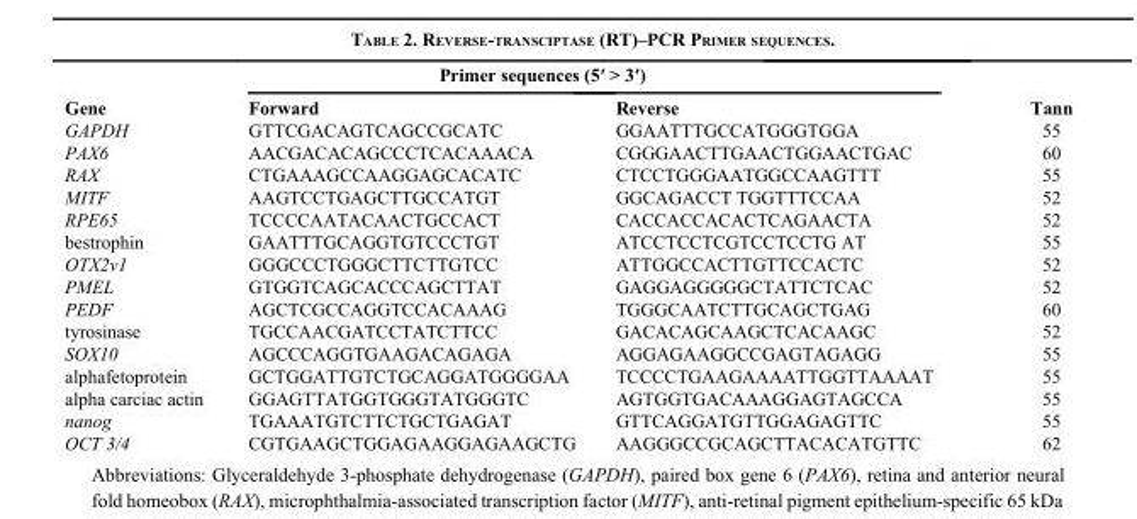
<table><thead><tr><td rowspan="2">Gene</td><td colspan="2">Primer sequences (5′ &gt; 3′)</td><td rowspan="2">Tann</td></tr><tr><td>Forward</td><td>Reverse</td></tr></thead><tbody><tr><td>GAPDH</td><td>GTTCGACAGTCAGCCGCATC</td><td>GGAATTTGCCATGGGTGGA</td><td>55</td></tr><tr><td>PAX6</td><td>AACGACACAGCCCTCACAAACA</td><td>CGGGAACTTGAACTGGAACTGAC</td><td>60</td></tr><tr><td>RAX</td><td>CTGAAAGCCAAGGAGCACATC</td><td>CTCCTGGGAATGGCCAAGTTT</td><td>55</td></tr><tr><td>MITF</td><td>AAGTCCTGAGCTTGCCATGT</td><td>GGCAGACCT TGGTTTCCAA</td><td>52</td></tr><tr><td>RPE65</td><td>TCCCCAATACAACTGCCACT</td><td>CACCACCACACTCAGAACTA</td><td>52</td></tr><tr><td>bestrophin</td><td>GAATTTGCAGGTGTCCCTGT</td><td>ATCCTCCTCGTCCTCCTG AT</td><td>55</td></tr><tr><td>OTX2v1</td><td>GGGCCCTGGGCTTCTTGTCC</td><td>ATTGGCCACTTGTTCCACTC</td><td>52</td></tr><tr><td>PMEL</td><td>GTGGTCAGCACCCAGCTTAT</td><td>GAGGAGGGGGCTATTCTCAC</td><td>52</td></tr><tr><td>PEDF</td><td>AGCTCGCCAGGTCCACAAAG</td><td>TGGGCAATCTTGCAGCTGAG</td><td>60</td></tr><tr><td>tyrosinase</td><td>TGCCAACGATCCTATCTTCC</td><td>GACACAGCAAGCTCACAAGC</td><td>52</td></tr><tr><td>SOX10</td><td>AGCCCAGGTGAAGACAGAGA</td><td>AGGAGAAGGCCGAGTAGAGG</td><td>55</td></tr><tr><td>alphafetoprotein</td><td>GCTGGATTGTCTGCAGGATGGGGAA</td><td>TCCCCTGAAGAAAATTGGTTAAAAT</td><td>55</td></tr><tr><td>alpha carciac actin</td><td>GGAGTTATGGTGGGTATGGGTC</td><td>AGTGGTGACAAAGGAGTAGCCA</td><td>55</td></tr><tr><td>nanog</td><td>TGAAATGTCTTCTGCTGAGAT</td><td>GTTCAGGATGTTGGAGAGTTC</td><td>55</td></tr><tr><td>OCT 3/4</td><td>CGTGAAGCTGGAGAAGGAGAAGCTG</td><td>AAGGGCCGCAGCTTACACATGTTC</td><td>62</td></tr></tbody></table>